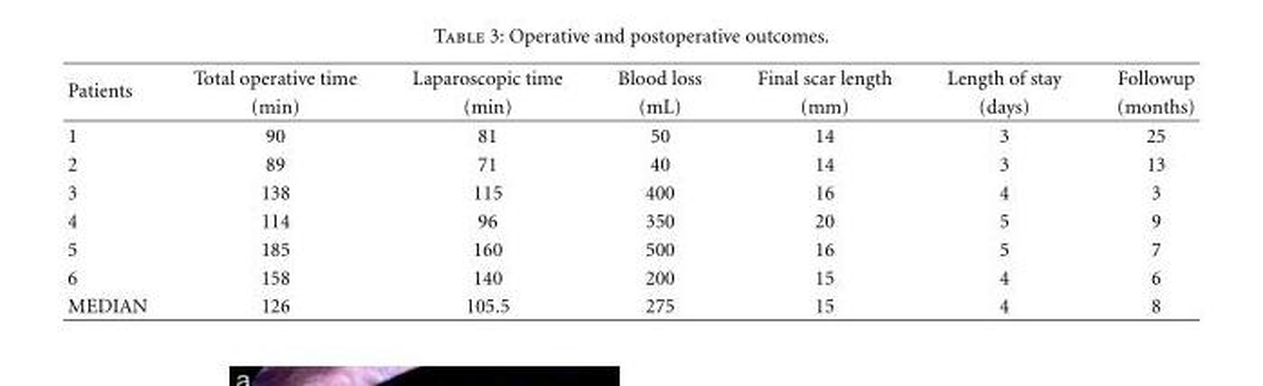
<table><thead><tr><td rowspan="2">Patients</td><td rowspan="2">Total operative time (min)</td><td rowspan="2">Laparoscopic time (min)</td><td rowspan="2">Blood loss (mL)</td><td rowspan="2">Final scar length (mm)</td><td rowspan="2">Length of stay (days)</td><td rowspan="2">Followup (months)</td></tr><tr></tr></thead><tbody><tr><td>1</td><td>90</td><td>81</td><td>50</td><td>14</td><td>3</td><td>25</td></tr><tr><td>2</td><td>89</td><td>71</td><td>40</td><td>14</td><td>3</td><td>13</td></tr><tr><td>3</td><td>138</td><td>115</td><td>400</td><td>16</td><td>4</td><td>3</td></tr><tr><td>4</td><td>114</td><td>96</td><td>350</td><td>20</td><td>5</td><td>9</td></tr><tr><td>5</td><td>185</td><td>160</td><td>500</td><td>16</td><td>5</td><td>7</td></tr><tr><td>6</td><td>158</td><td>140</td><td>200</td><td>15</td><td>4</td><td>6</td></tr><tr><td>MEDIAN</td><td>126</td><td>105.5</td><td>275</td><td>15</td><td>4</td><td>8</td></tr></tbody></table>